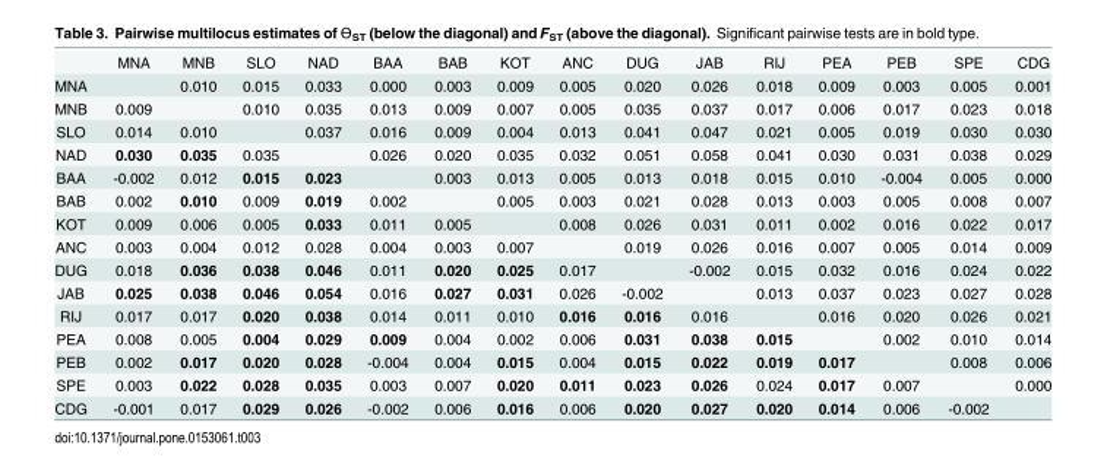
<table><thead><tr><td></td><td>MNA</td><td>MNB</td><td>SLO</td><td>NAD</td><td>BAA</td><td>BAB</td><td>KOT</td><td>ANC</td><td>DUG</td><td>JAB</td><td>RIJ</td><td>PEA</td><td>PEB</td><td>SPE</td><td>CDG</td></tr></thead><tbody><tr><td>MNA</td><td></td><td>0.010</td><td>0.015</td><td>0.033</td><td>0.000</td><td>0.003</td><td>0.009</td><td>0.005</td><td>0.020</td><td>0.026</td><td>0.018</td><td>0.009</td><td>0.003</td><td>0.005</td><td>0.001</td></tr><tr><td>MNB</td><td>0.009</td><td></td><td>0.010</td><td>0.035</td><td>0.013</td><td>0.009</td><td>0.007</td><td>0.005</td><td>0.035</td><td>0.037</td><td>0.017</td><td>0.006</td><td>0.017</td><td>0.023</td><td>0.018</td></tr><tr><td>SLO</td><td>0.014</td><td>0.010</td><td></td><td>0.037</td><td>0.016</td><td>0.009</td><td>0.004</td><td>0.013</td><td>0.041</td><td>0.047</td><td>0.021</td><td>0.005</td><td>0.019</td><td>0.030</td><td>0.030</td></tr><tr><td>NAD</td><td>0.030</td><td>0.035</td><td>0.035</td><td></td><td>0.026</td><td>0.020</td><td>0.035</td><td>0.032</td><td>0.051</td><td>0.058</td><td>0.041</td><td>0.030</td><td>0.031</td><td>0.038</td><td>0.029</td></tr><tr><td>BAA</td><td>-0.002</td><td>0.012</td><td>0.015</td><td>0.023</td><td></td><td>0.003</td><td>0.013</td><td>0.005</td><td>0.013</td><td>0.018</td><td>0.015</td><td>0.010</td><td>-0.004</td><td>0.005</td><td>0.000</td></tr><tr><td>BAB</td><td>0.002</td><td>0.010</td><td>0.009</td><td>0.019</td><td>0.002</td><td></td><td>0.005</td><td>0.003</td><td>0.021</td><td>0.028</td><td>0.013</td><td>0.003</td><td>0.005</td><td>0.008</td><td>0.007</td></tr><tr><td>KOT</td><td>0.009</td><td>0.006</td><td>0.005</td><td>0.033</td><td>0.011</td><td>0.005</td><td></td><td>0.008</td><td>0.026</td><td>0.031</td><td>0.011</td><td>0.002</td><td>0.016</td><td>0.022</td><td>0.017</td></tr><tr><td>ANC</td><td>0.003</td><td>0.004</td><td>0.012</td><td>0.028</td><td>0.004</td><td>0.003</td><td>0.007</td><td></td><td>0.019</td><td>0.026</td><td>0.016</td><td>0.007</td><td>0.005</td><td>0.014</td><td>0.009</td></tr><tr><td>DUG</td><td>0.018</td><td>0.036</td><td>0.038</td><td>0.046</td><td>0.011</td><td>0.020</td><td>0.025</td><td>0.017</td><td></td><td>-0.002</td><td>0.015</td><td>0.032</td><td>0.016</td><td>0.024</td><td>0.022</td></tr><tr><td>JAB</td><td>0.025</td><td>0.038</td><td>0.046</td><td>0.054</td><td>0.016</td><td>0.027</td><td>0.031</td><td>0.026</td><td>-0.002</td><td></td><td>0.013</td><td>0.037</td><td>0.023</td><td>0.027</td><td>0.028</td></tr><tr><td>RIJ</td><td>0.017</td><td>0.017</td><td>0.020</td><td>0.038</td><td>0.014</td><td>0.011</td><td>0.010</td><td>0.016</td><td>0.016</td><td>0.016</td><td></td><td>0.016</td><td>0.020</td><td>0.026</td><td>0.021</td></tr><tr><td>PEA</td><td>0.008</td><td>0.005</td><td>0.004</td><td>0.029</td><td>0.009</td><td>0.004</td><td>0.002</td><td>0.006</td><td>0.031</td><td>0.038</td><td>0.015</td><td></td><td>0.002</td><td>0.010</td><td>0.014</td></tr><tr><td>PEB</td><td>0.002</td><td>0.017</td><td>0.020</td><td>0.028</td><td>-0.004</td><td>0.004</td><td>0.015</td><td>0.004</td><td>0.015</td><td>0.022</td><td>0.019</td><td>0.017</td><td></td><td>0.008</td><td>0.006</td></tr><tr><td>SPE</td><td>0.003</td><td>0.022</td><td>0.028</td><td>0.035</td><td>0.003</td><td>0.007</td><td>0.020</td><td>0.011</td><td>0.023</td><td>0.026</td><td>0.024</td><td>0.017</td><td>0.007</td><td></td><td>0.000</td></tr><tr><td>CDG</td><td>-0.001</td><td>0.017</td><td>0.029</td><td>0.026</td><td>-0.002</td><td>0.006</td><td>0.016</td><td>0.006</td><td>0.020</td><td>0.027</td><td>0.020</td><td>0.014</td><td>0.006</td><td>-0.002</td><td></td></tr></tbody></table>